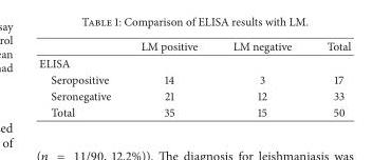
<table><thead><tr><td></td><td>LM positive</td><td>LM negative</td><td>Total</td></tr></thead><tbody><tr><td colspan="4">ELISA</td></tr><tr><td>Seropositive</td><td>14</td><td>3</td><td>17</td></tr><tr><td>Seronegative</td><td>21</td><td>12</td><td>33</td></tr><tr><td>Total</td><td>35</td><td>15</td><td>50</td></tr></tbody></table>